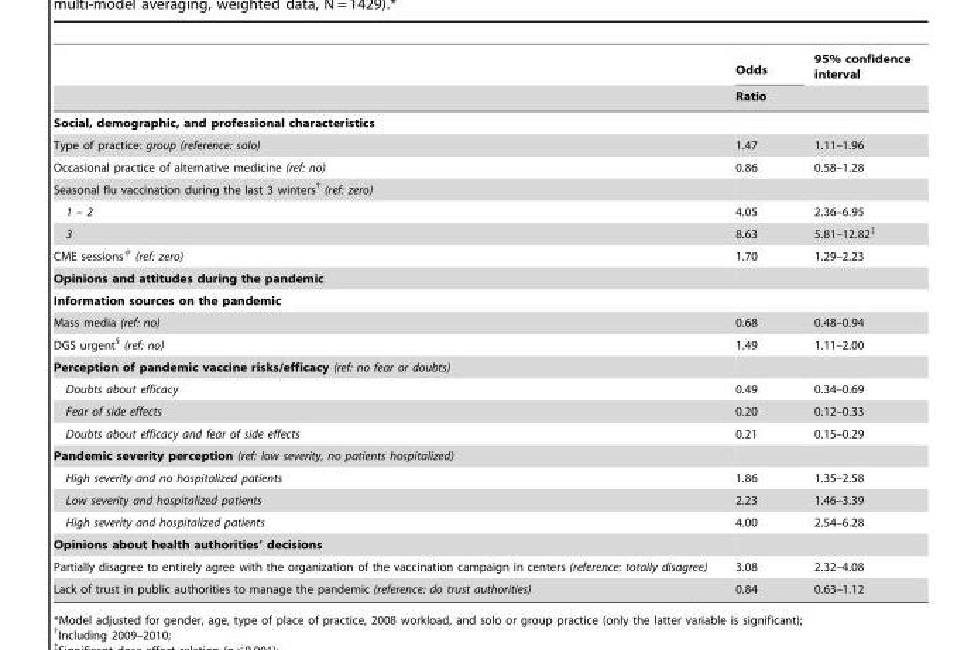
<table><thead><tr><td rowspan="2"></td><td rowspan="2">Odds Ratio</td><td rowspan="2">95% confidence interval</td></tr><tr></tr></thead><tbody><tr><td colspan="3">Social, demographic, and professional characteristics</td></tr><tr><td>Type of practice: group (reference: solo)</td><td>1.47</td><td>1.11–1.96</td></tr><tr><td>Occasional practice of alternative medicine (ref: no)</td><td>0.86</td><td>0.58–1.28</td></tr><tr><td colspan="3">Seasonal flu vaccination during the last 3 winters† (ref: zero)</td></tr><tr><td>1 – 2</td><td>4.05</td><td>2.36–6.95</td></tr><tr><td>3</td><td>8.63</td><td>5.81–12.82‡</td></tr><tr><td>CME sessions# (ref: zero)</td><td>1.70</td><td>1.29–2.23</td></tr><tr><td colspan="3">Opinions and attitudes during the pandemic</td></tr><tr><td colspan="3">Information sources on the pandemic</td></tr><tr><td>Mass media (ref: no)</td><td>0.68</td><td>0.48–0.94</td></tr><tr><td>DGS urgent§ (ref: no)</td><td>1.49</td><td>1.11–2.00</td></tr><tr><td colspan="3">Perception of pandemic vaccine risks/efficacy (ref: no fear or doubts)</td></tr><tr><td>Doubts about efficacy</td><td>0.49</td><td>0.34–0.69</td></tr><tr><td>Fear of side effects</td><td>0.20</td><td>0.12–0.33</td></tr><tr><td>Doubts about efficacy and fear of side effects</td><td>0.21</td><td>0.15–0.29</td></tr><tr><td colspan="3">Pandemic severity perception (ref: low severity, no patients hospitalized)</td></tr><tr><td>High severity and no hospitalized patients</td><td>1.86</td><td>1.35–2.58</td></tr><tr><td>Low severity and hospitalized patients</td><td>2.23</td><td>1.46–3.39</td></tr><tr><td>High severity and hospitalized patients</td><td>4.00</td><td>2.54–6.28</td></tr><tr><td colspan="3">Opinions about health authorities’ decisions</td></tr><tr><td>Partially disagree to entirely agree with the organization of the vaccination campaign in centers (reference: totally disagree)</td><td>3.08</td><td>2.32–4.08</td></tr><tr><td>Lack of trust in public authorities to manage the pandemic (reference: do trust authorities)</td><td>0.84</td><td>0.63–1.12</td></tr></tbody></table>